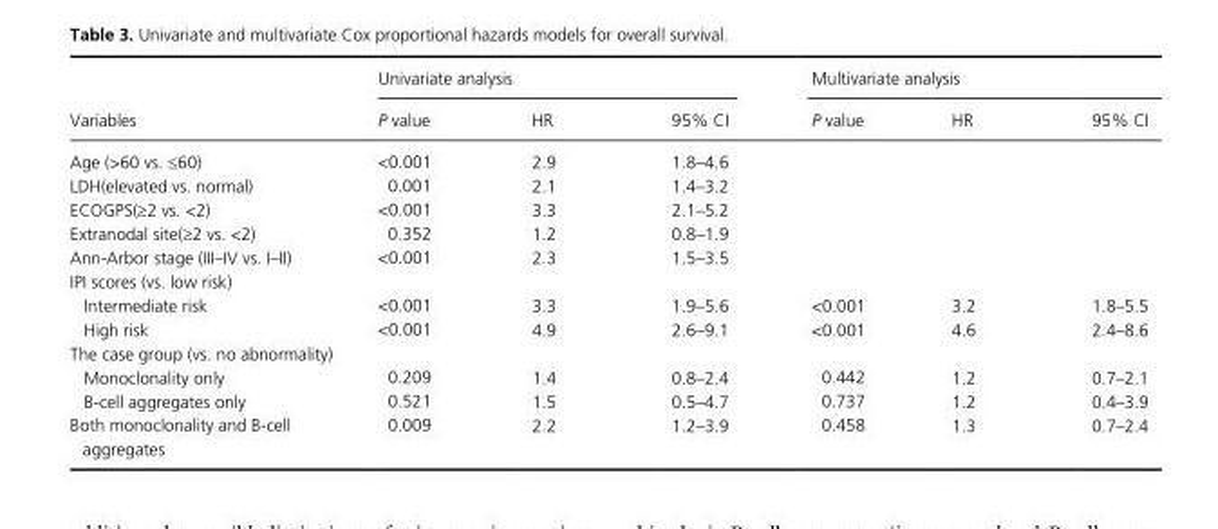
<table><thead><tr><td rowspan="2">Variables</td><td colspan="3">Univariate analysis</td><td colspan="3">Multivariate analysis</td></tr><tr><td>P value</td><td>HR</td><td>95% CI</td><td>P value</td><td>HR</td><td>95% CI</td></tr></thead><tbody><tr><td>Age (&gt;60 vs. ≤60)</td><td>&lt;0.001</td><td>2.9</td><td>1.8–4.6</td><td></td><td></td><td></td></tr><tr><td>LDH(elevated vs. normal)</td><td>0.001</td><td>2.1</td><td>1.4–3.2</td><td></td><td></td><td></td></tr><tr><td>ECOGPS(≥2 vs. &lt;2)</td><td>&lt;0.001</td><td>3.3</td><td>2.1–5.2</td><td></td><td></td><td></td></tr><tr><td>Extranodal site(≥2 vs. &lt;2)</td><td>0.352</td><td>1.2</td><td>0.8–1.9</td><td></td><td></td><td></td></tr><tr><td>Ann- Arbor stage (III–IV vs. I–II)</td><td>&lt;0.001</td><td>2.3</td><td>1.5–3.5</td><td></td><td></td><td></td></tr><tr><td colspan="7">IPI scores (vs. low risk)</td></tr><tr><td>Intermediate risk</td><td>&lt;0.001</td><td>3.3</td><td>1.9–5.6</td><td>&lt;0.001</td><td>3.2</td><td>1.8–5.5</td></tr><tr><td>High risk</td><td>&lt;0.001</td><td>4.9</td><td>2.6–9.1</td><td>&lt;0.001</td><td>4.6</td><td>2.4–8.6</td></tr><tr><td colspan="7">The case group (vs. no abnormality)</td></tr><tr><td>Monoclonality only</td><td>0.209</td><td>1.4</td><td>0.8–2.4</td><td>0.442</td><td>1.2</td><td>0.7–2.1</td></tr><tr><td>B- cell aggregates only</td><td>0.521</td><td>1.5</td><td>0.5–4.7</td><td>0.737</td><td>1.2</td><td>0.4–3.9</td></tr><tr><td>Both monoclonality and B- cell aggregates</td><td>0.009</td><td>2.2</td><td>1.2–3.9</td><td>0.458</td><td>1.3</td><td>0.7–2.4</td></tr></tbody></table>